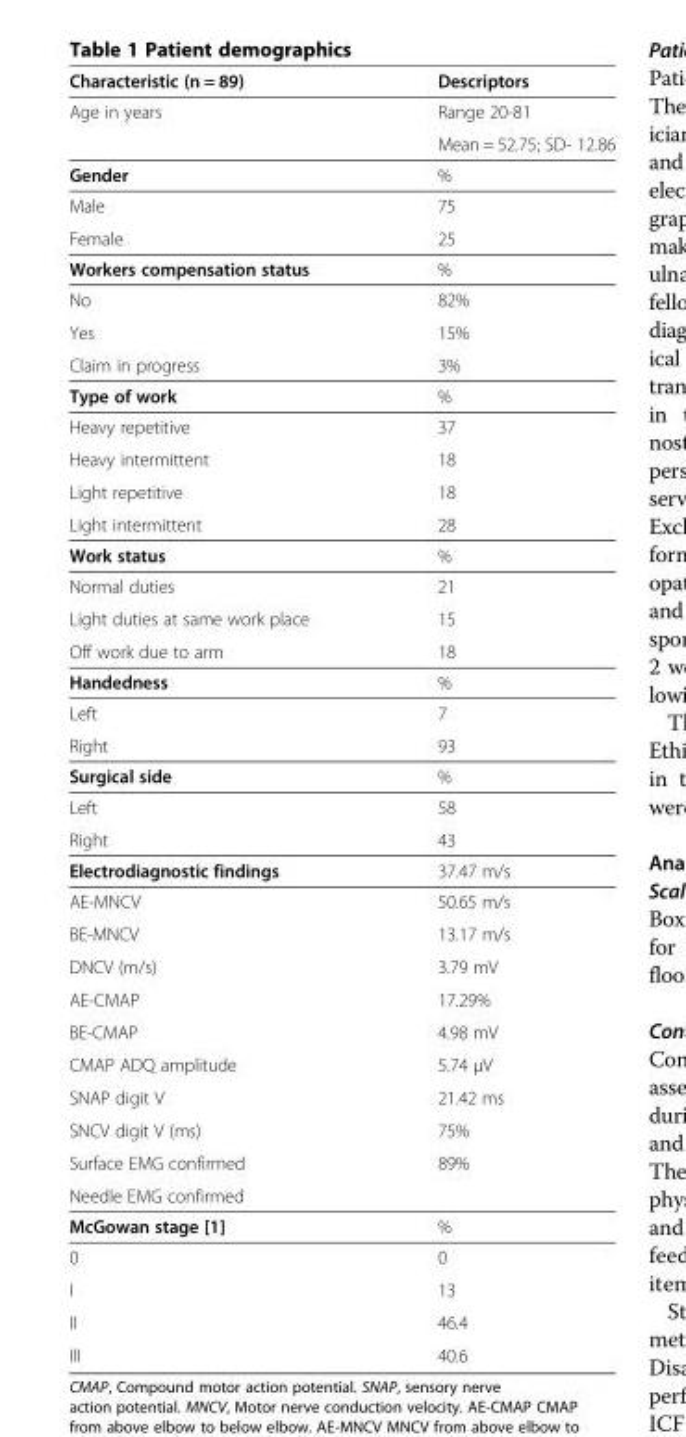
<table><thead><tr><td>Characteristic (n = 89)</td><td>Descriptors</td></tr></thead><tbody><tr><td rowspan="2">Age in years</td><td>Range 20-81</td></tr><tr><td>Mean = 52.75; SD- 12.86</td></tr><tr><td>Gender</td><td>%</td></tr><tr><td>Male</td><td>75</td></tr><tr><td>Female</td><td>25</td></tr><tr><td>Workers compensation status</td><td>%</td></tr><tr><td>No</td><td>82%</td></tr><tr><td>Yes</td><td>15%</td></tr><tr><td>Claim in progress</td><td>3%</td></tr><tr><td>Type of work</td><td>%</td></tr><tr><td>Heavy repetitive</td><td>37</td></tr><tr><td>Heavy intermittent</td><td>18</td></tr><tr><td>Light repetitive</td><td>18</td></tr><tr><td>Light intermittent</td><td>28</td></tr><tr><td>Work status</td><td>%</td></tr><tr><td>Normal duties</td><td>21</td></tr><tr><td>Light duties at same work place</td><td>15</td></tr><tr><td>Off work due to arm</td><td>18</td></tr><tr><td>Handedness</td><td>%</td></tr><tr><td>Left</td><td>7</td></tr><tr><td>Right</td><td>93</td></tr><tr><td>Surgical side</td><td>%</td></tr><tr><td>Left</td><td>58</td></tr><tr><td>Right</td><td>43</td></tr><tr><td>Electrodiagnostic findings</td><td>37.47 m/s</td></tr><tr><td>AE-MNCV</td><td>50.65 m/s</td></tr><tr><td>BE-MNCV</td><td>13.17 m/s</td></tr><tr><td>DNCV (m/s)</td><td>3.79 mV</td></tr><tr><td>AE-CMAP</td><td>17.29%</td></tr><tr><td>BE-CMAP</td><td>4.98 mV</td></tr><tr><td>CMAP ADQ amplitude</td><td>5.74 μV</td></tr><tr><td>SNAP digit V</td><td>21.42 ms</td></tr><tr><td>SNCV digit V (ms)</td><td>75%</td></tr><tr><td>Surface EMG confirmed</td><td>89%</td></tr><tr><td colspan="2">Needle EMG confirmed</td></tr><tr><td>McGowan stage [1]</td><td>%</td></tr><tr><td>0</td><td>0</td></tr><tr><td>I</td><td>13</td></tr><tr><td>II</td><td>46.4</td></tr><tr><td>III</td><td>40.6</td></tr></tbody></table>